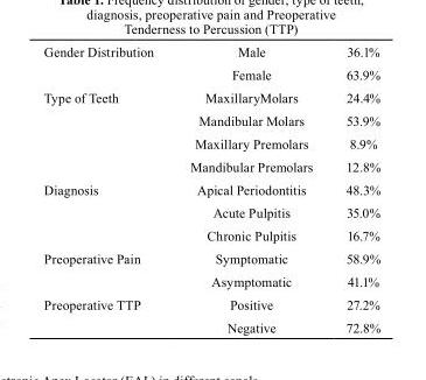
<table><tbody><tr><td rowspan="2">Gender Distribution</td><td>Male</td><td>36.1%</td></tr><tr><td>Female</td><td>63.9%</td></tr><tr><td rowspan="4">Type of Teeth</td><td>MaxillaryMolars</td><td>24.4%</td></tr><tr><td>Mandibular Molars</td><td>53.9%</td></tr><tr><td>Maxillary Premolars</td><td>8.9%</td></tr><tr><td>Mandibular Premolars</td><td>12.8%</td></tr><tr><td rowspan="3">Diagnosis</td><td>Apical Periodontitis</td><td>48.3%</td></tr><tr><td>Acute Pulpitis</td><td>35.0%</td></tr><tr><td>Chronic Pulpitis</td><td>16.7%</td></tr><tr><td rowspan="2">Preoperative Pain</td><td>Symptomatic</td><td>58.9%</td></tr><tr><td>Asymptomatic</td><td>41.1%</td></tr><tr><td rowspan="2">Preoperative TTP</td><td>Positive</td><td>27.2%</td></tr><tr><td>Negative</td><td>72.8%</td></tr></tbody></table>